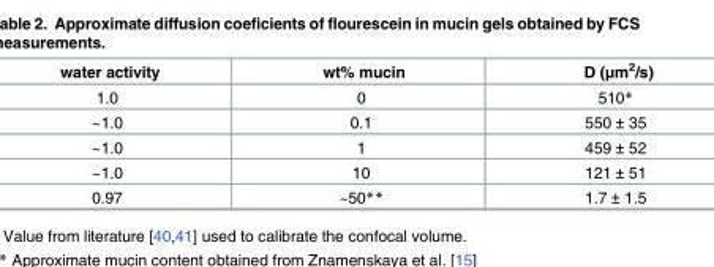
<table><thead><tr><td>water activity</td><td>wt% mucin</td><td>D (μm<sup>2</sup>/s)</td></tr></thead><tbody><tr><td>1.0</td><td>0</td><td>510*</td></tr><tr><td>~1.0</td><td>0.1</td><td>550 ± 35</td></tr><tr><td>~1.0</td><td>1</td><td>459 ± 52</td></tr><tr><td>~1.0</td><td>10</td><td>121 ± 51</td></tr><tr><td>0.97</td><td>~50**</td><td>1.7 ± 1.5</td></tr></tbody></table>